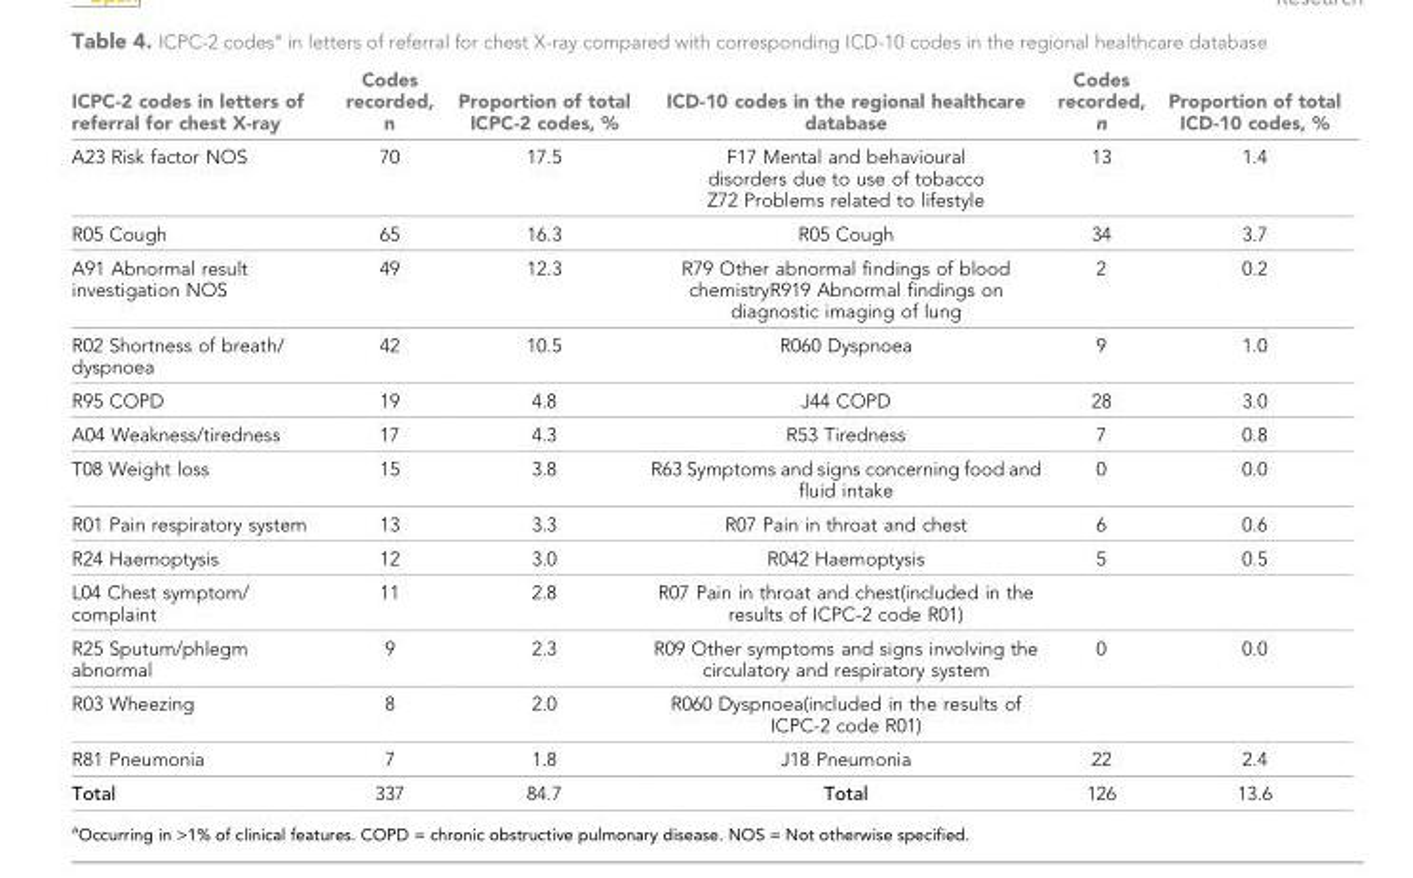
<table><thead><tr><td>ICPC-2 codes in letters of referral for chest X-ray</td><td>Codes recorded, n</td><td>Proportion of total ICPC-2 codes, %</td><td>ICD-10 codes in the regional healthcare database</td><td>Codes recorded, n</td><td>Proportion of total ICD-10 codes, %</td></tr></thead><tbody><tr><td>A23 Risk factor NOS</td><td>70</td><td>17.5</td><td>F17 Mental and behavioural disorders due to use of tobacco Z72 Problems related to lifestyle</td><td>13</td><td>1.4</td></tr><tr><td>R05 Cough</td><td>65</td><td>16.3</td><td>R05 Cough</td><td>34</td><td>3.7</td></tr><tr><td>A91 Abnormal result investigation NOS</td><td>49</td><td>12.3</td><td>R79 Other abnormal findings of blood chemistryR919 Abnormal findings on diagnostic imaging of lung</td><td>2</td><td>0.2</td></tr><tr><td>R02 Shortness of breath/ dyspnoea</td><td>42</td><td>10.5</td><td>R060 Dyspnoea</td><td>9</td><td>1.0</td></tr><tr><td>R95 COPD</td><td>19</td><td>4.8</td><td>J44 COPD</td><td>28</td><td>3.0</td></tr><tr><td>A04 Weakness/tiredness</td><td>17</td><td>4.3</td><td>R53 Tiredness</td><td>7</td><td>0.8</td></tr><tr><td>T08 Weight loss</td><td>15</td><td>3.8</td><td>R63 Symptoms and signs concerning food and fluid intake</td><td>0</td><td>0.0</td></tr><tr><td>R01 Pain respiratory system</td><td>13</td><td>3.3</td><td>R07 Pain in throat and chest</td><td>6</td><td>0.6</td></tr><tr><td>R24 Haemoptysis</td><td>12</td><td>3.0</td><td>R042 Haemoptysis</td><td>5</td><td>0.5</td></tr><tr><td>L04 Chest symptom/ complaint</td><td>11</td><td>2.8</td><td>R07 Pain in throat and chest(included in the results of ICPC-2 code R01)</td><td></td><td></td></tr><tr><td>R25 Sputum/phlegm abnormal</td><td>9</td><td>2.3</td><td>R09 Other symptoms and signs involving the circulatory and respiratory system</td><td>0</td><td>0.0</td></tr><tr><td>R03 Wheezing</td><td>8</td><td>2.0</td><td>R060 Dyspnoea(included in the results of ICPC-2 code R01)</td><td></td><td></td></tr><tr><td>R81 Pneumonia</td><td>7</td><td>1.8</td><td>J18 Pneumonia</td><td>22</td><td>2.4</td></tr><tr><td>Total</td><td>337</td><td>84.7</td><td>Total</td><td>126</td><td>13.6</td></tr></tbody></table>